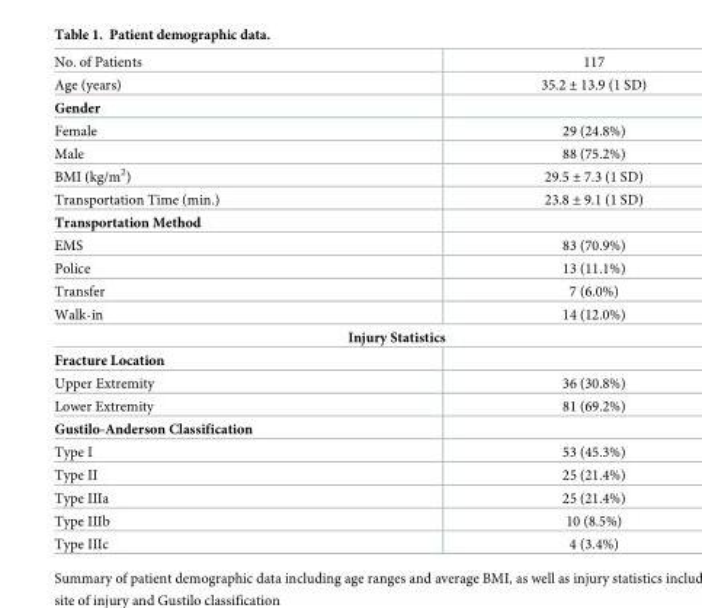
<table><tbody><tr><td>No. of Patients</td><td>117</td></tr><tr><td>Age (years)</td><td>35.2 ± 13.9 (1 SD)</td></tr><tr><td colspan="2">Gender</td></tr><tr><td>Female</td><td>29 (24.8%)</td></tr><tr><td>Male</td><td>88 (75.2%)</td></tr><tr><td>BMI (kg/m<sup>2</sup>)</td><td>29.5 ± 7.3 (1 SD)</td></tr><tr><td>Transportation Time (min.)</td><td>23.8 ± 9.1 (1 SD)</td></tr><tr><td colspan="2">Transportation Method</td></tr><tr><td>EMS</td><td>83 (70.9%)</td></tr><tr><td>Police</td><td>13 (11.1%)</td></tr><tr><td>Transfer</td><td>7 (6.0%)</td></tr><tr><td>Walk-in</td><td>14 (12.0%)</td></tr><tr><td colspan="2">Injury Statistics</td></tr><tr><td colspan="2">Fracture Location</td></tr><tr><td>Upper Extremity</td><td>36 (30.8%)</td></tr><tr><td>Lower Extremity</td><td>81 (69.2%)</td></tr><tr><td colspan="2">Gustilo-Anderson Classification</td></tr><tr><td>Type I</td><td>53 (45.3%)</td></tr><tr><td>Type II</td><td>25 (21.4%)</td></tr><tr><td>Type IIIa</td><td>25 (21.4%)</td></tr><tr><td>Type IIIb</td><td>10 (8.5%)</td></tr><tr><td>Type IIIc</td><td>4 (3.4%)</td></tr></tbody></table>